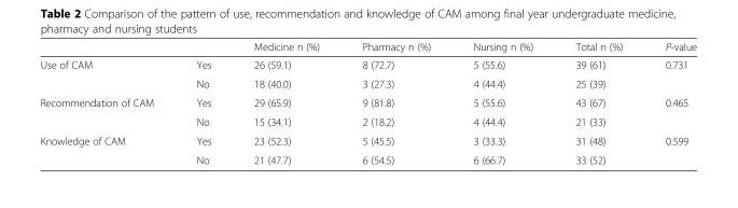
<table><thead><tr><td></td><td></td><td>Medicine n (%)</td><td>Pharmacy n (%)</td><td>Nursing n (%)</td><td>Total n (%)</td><td>P-value</td></tr></thead><tbody><tr><td rowspan="2">Use of CAM</td><td>Yes</td><td>26 (59.1)</td><td>8 (72.7)</td><td>5 (55.6)</td><td>39 (61)</td><td rowspan="2">0.731</td></tr><tr><td>No</td><td>18 (40.0)</td><td>3 (27.3)</td><td>4 (44.4)</td><td>25 (39)</td></tr><tr><td rowspan="2">Recommendation of CAM</td><td>Yes</td><td>29 (65.9)</td><td>9 (81.8)</td><td>5 (55.6)</td><td>43 (67)</td><td rowspan="2">0.465</td></tr><tr><td>No</td><td>15 (34.1)</td><td>2 (18.2)</td><td>4 (44.4)</td><td>21 (33)</td></tr><tr><td rowspan="2">Knowledge of CAM</td><td>Yes</td><td>23 (52.3)</td><td>5 (45.5)</td><td>3 (33.3)</td><td>31 (48)</td><td rowspan="2">0.599</td></tr><tr><td>No</td><td>21 (47.7)</td><td>6 (54.5)</td><td>6 (66.7)</td><td>33 (52)</td></tr></tbody></table>